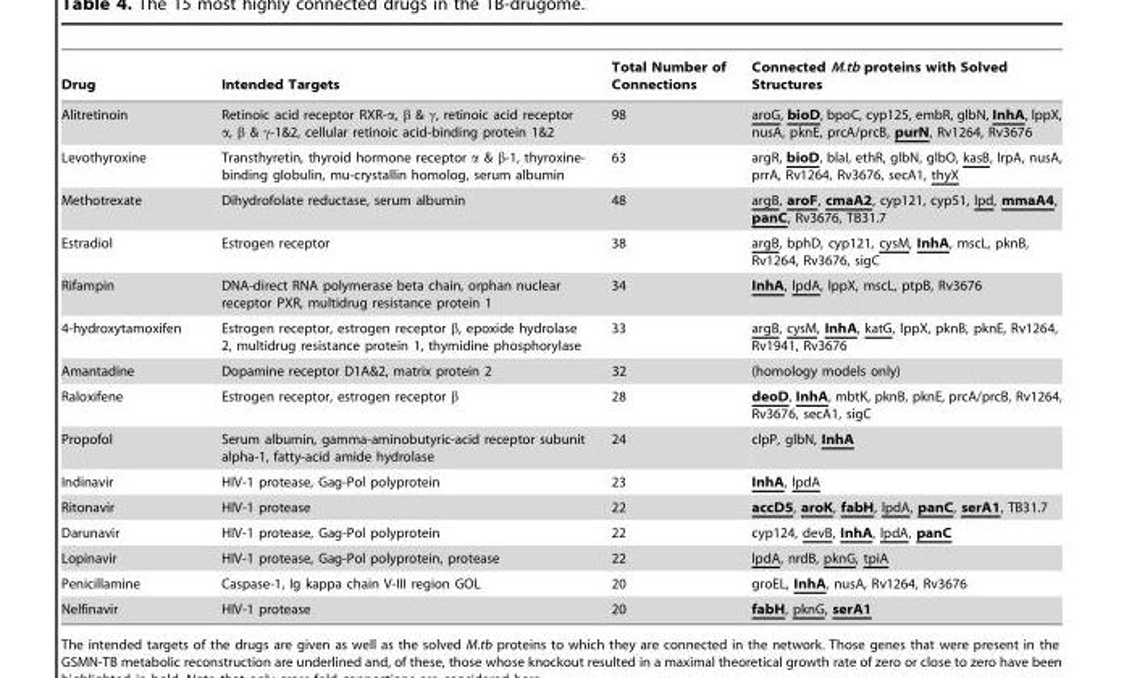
<table><thead><tr><td>Drug</td><td>Intended Targets</td><td>Total Number of Connections</td><td>Connected M.tb proteins with Solved Structures</td></tr></thead><tbody><tr><td>Alitretinoin</td><td>Retinoic acid receptor RXR-α, β &amp; γ, retinoic acid receptor α, β &amp; γ-1&amp;2, cellular retinoic acid-binding protein 1&amp;2</td><td>98</td><td>aroG, bioD, bpoC, cyp125, embR, glbN, InhA, lppX, nusA, pknE, prcA/prcB, purN, Rv1264, Rv3676</td></tr><tr><td>Levothyroxine</td><td>Transthyretin, thyroid hormone receptor α &amp; β-1, thyroxine- binding globulin, mu-crystallin homolog, serum albumin</td><td>63</td><td>argR, bioD, blaI, ethR, glbN, glbO, kasB, lrpA, nusA, prrA, Rv1264, Rv3676, secA1, thyX</td></tr><tr><td>Methotrexate</td><td>Dihydrofolate reductase, serum albumin</td><td>48</td><td>argB, aroF, cmaA2, cyp121, cyp51, lpd, mmaA4, panC, Rv3676, TB31.7</td></tr><tr><td>Estradiol</td><td>Estrogen receptor</td><td>38</td><td>argB, bphD, cyp121, cysM, InhA, mscL, pknB, Rv1264, Rv3676, sigC</td></tr><tr><td>Rifampin</td><td>DNA-direct RNA polymerase beta chain, orphan nuclear receptor PXR, multidrug resistance protein 1</td><td>34</td><td>InhA, lpdA, lppX, mscL, ptpB, Rv3676</td></tr><tr><td>4-hydroxytamoxifen</td><td>Estrogen receptor, estrogen receptor β, epoxide hydrolase 2, multidrug resistance protein 1, thymidine phosphorylase</td><td>33</td><td>argB, cysM, InhA, katG, lppX, pknB, pknE, Rv1264, Rv1941, Rv3676</td></tr><tr><td>Amantadine</td><td>Dopamine receptor D1A&amp;2, matrix protein 2</td><td>32</td><td>(homology models only)</td></tr><tr><td>Raloxifene</td><td>Estrogen receptor, estrogen receptor β</td><td>28</td><td>deoD, InhA, mbtK, pknB, pknE, prcA/prcB, Rv1264, Rv3676, secA1, sigC</td></tr><tr><td>Propofol</td><td>Serum albumin, gamma-aminobutyric-acid receptor subunit alpha-1, fatty-acid amide hydrolase</td><td>24</td><td>clpP, glbN, InhA</td></tr><tr><td>Indinavir</td><td>HIV-1 protease, Gag-Pol polyprotein</td><td>23</td><td>InhA, lpdA</td></tr><tr><td>Ritonavir</td><td>HIV-1 protease</td><td>22</td><td>accD5, aroK, fabH, lpdA, panC, serA1, TB31.7</td></tr><tr><td>Darunavir</td><td>HIV-1 protease, Gag-Pol polyprotein</td><td>22</td><td>cyp124, devB, InhA, lpdA, panC</td></tr><tr><td>Lopinavir</td><td>HIV-1 protease, Gag-Pol polyprotein, protease</td><td>22</td><td>lpdA, nrdB, pknG, tpiA</td></tr><tr><td>Penicillamine</td><td>Caspase-1, Ig kappa chain V-III region GOL</td><td>20</td><td>groEL, InhA, nusA, Rv1264, Rv3676</td></tr><tr><td>Nelfinavir</td><td>HIV-1 protease</td><td>20</td><td>fabH, pknG, serA1</td></tr></tbody></table>